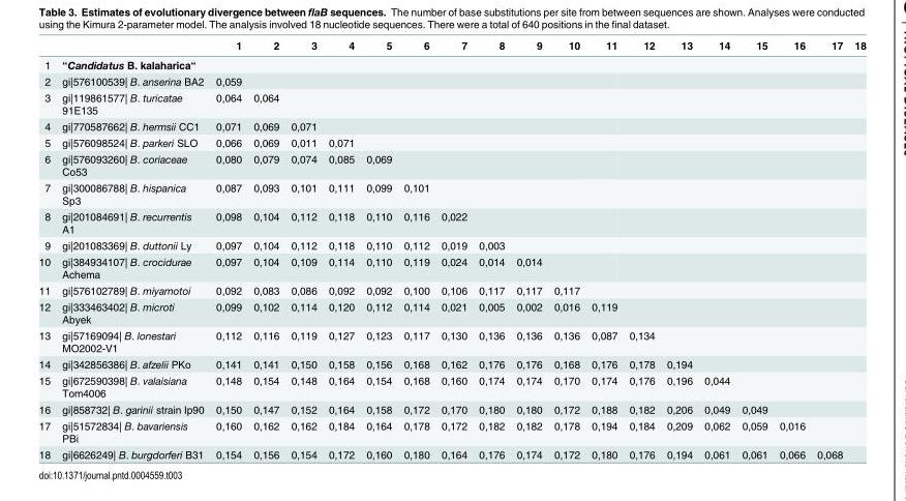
<table><thead><tr><td></td><td></td><td>1</td><td>2</td><td>3</td><td>4</td><td>5</td><td>6</td><td>7</td><td>8</td><td>9</td><td>10</td><td>11</td><td>12</td><td>13</td><td>14</td><td>15</td><td>16</td><td>17</td><td>18</td></tr></thead><tbody><tr><td>1</td><td>“Candidatus B. kalaharica“</td><td></td><td></td><td></td><td></td><td></td><td></td><td></td><td></td><td></td><td></td><td></td><td></td><td></td><td></td><td></td><td></td><td></td><td></td></tr><tr><td>2</td><td>gi|576100539| B. anserina BA2</td><td>0,059</td><td></td><td></td><td></td><td></td><td></td><td></td><td></td><td></td><td></td><td></td><td></td><td></td><td></td><td></td><td></td><td></td><td></td></tr><tr><td>3</td><td>gi|119861577| B. turicatae 91E135</td><td>0,064</td><td>0,064</td><td></td><td></td><td></td><td></td><td></td><td></td><td></td><td></td><td></td><td></td><td></td><td></td><td></td><td></td><td></td><td></td></tr><tr><td>4</td><td>gi|770587662| B. hermsii CC1</td><td>0,071</td><td>0,069</td><td>0,071</td><td></td><td></td><td></td><td></td><td></td><td></td><td></td><td></td><td></td><td></td><td></td><td></td><td></td><td></td><td></td></tr><tr><td>5</td><td>gi|576098524| B. parkeri SLO</td><td>0,066</td><td>0,069</td><td>0,011</td><td>0,071</td><td></td><td></td><td></td><td></td><td></td><td></td><td></td><td></td><td></td><td></td><td></td><td></td><td></td><td></td></tr><tr><td>6</td><td>gi|576093260| B. coriaceae Co53</td><td>0,080</td><td>0,079</td><td>0,074</td><td>0,085</td><td>0,069</td><td></td><td></td><td></td><td></td><td></td><td></td><td></td><td></td><td></td><td></td><td></td><td></td><td></td></tr><tr><td>7</td><td>gi|300086788| B. hispanica Sp3</td><td>0,087</td><td>0,093</td><td>0,101</td><td>0,111</td><td>0,099</td><td>0,101</td><td></td><td></td><td></td><td></td><td></td><td></td><td></td><td></td><td></td><td></td><td></td><td></td></tr><tr><td>8</td><td>gi|201084691| B. recurrentis A1</td><td>0,098</td><td>0,104</td><td>0,112</td><td>0,118</td><td>0,110</td><td>0,116</td><td>0,022</td><td></td><td></td><td></td><td></td><td></td><td></td><td></td><td></td><td></td><td></td><td></td></tr><tr><td>9</td><td>gi|201083369| B. duttonii Ly</td><td>0,097</td><td>0,104</td><td>0,112</td><td>0,118</td><td>0,110</td><td>0,112</td><td>0,019</td><td>0,003</td><td></td><td></td><td></td><td></td><td></td><td></td><td></td><td></td><td></td><td></td></tr><tr><td>10</td><td>gi|384934107| B. crocidurae Achema</td><td>0,097</td><td>0,104</td><td>0,109</td><td>0,114</td><td>0,110</td><td>0,119</td><td>0,024</td><td>0,014</td><td>0,014</td><td></td><td></td><td></td><td></td><td></td><td></td><td></td><td></td><td></td></tr><tr><td>11</td><td>gi|576102789| B. miyamotoi</td><td>0,092</td><td>0,083</td><td>0,086</td><td>0,092</td><td>0,092</td><td>0,100</td><td>0,106</td><td>0,117</td><td>0,117</td><td>0,117</td><td></td><td></td><td></td><td></td><td></td><td></td><td></td><td></td></tr><tr><td>12</td><td>gi|333463402| B. microti Abyek</td><td>0,099</td><td>0,102</td><td>0,114</td><td>0,120</td><td>0,112</td><td>0,114</td><td>0,021</td><td>0,005</td><td>0,002</td><td>0,016</td><td>0,119</td><td></td><td></td><td></td><td></td><td></td><td></td><td></td></tr><tr><td>13</td><td>gi|57169094| B. lonestari MO2002-V1</td><td>0,112</td><td>0,116</td><td>0,119</td><td>0,127</td><td>0,123</td><td>0,117</td><td>0,130</td><td>0,136</td><td>0,136</td><td>0,136</td><td>0,087</td><td>0,134</td><td></td><td></td><td></td><td></td><td></td><td></td></tr><tr><td>14</td><td>gi|342856386| B. afzelii PKo</td><td>0,141</td><td>0,141</td><td>0,150</td><td>0,158</td><td>0,156</td><td>0,168</td><td>0,162</td><td>0,176</td><td>0,176</td><td>0,168</td><td>0,176</td><td>0,178</td><td>0,194</td><td></td><td></td><td></td><td></td><td></td></tr><tr><td>15</td><td>gi|672590398| B. valaisiana Tom4006</td><td>0,148</td><td>0,154</td><td>0,148</td><td>0,164</td><td>0,154</td><td>0,168</td><td>0,160</td><td>0,174</td><td>0,174</td><td>0,170</td><td>0,174</td><td>0,176</td><td>0,196</td><td>0,044</td><td></td><td></td><td></td><td></td></tr><tr><td>16</td><td>gi|858732| B. garinii strain Ip90</td><td>0,150</td><td>0,147</td><td>0,152</td><td>0,164</td><td>0,158</td><td>0,172</td><td>0,170</td><td>0,180</td><td>0,180</td><td>0,172</td><td>0,188</td><td>0,182</td><td>0,206</td><td>0,049</td><td>0,049</td><td></td><td></td><td></td></tr><tr><td>17</td><td>gi|51572834| B. bavariensis PBi</td><td>0,160</td><td>0,162</td><td>0,162</td><td>0,184</td><td>0,164</td><td>0,178</td><td>0,172</td><td>0,182</td><td>0,182</td><td>0,178</td><td>0,194</td><td>0,184</td><td>0,209</td><td>0,062</td><td>0,059</td><td>0,016</td><td></td><td></td></tr><tr><td>18</td><td>gi|6626249| B. burgdorferi B31</td><td>0,154</td><td>0,156</td><td>0,154</td><td>0,172</td><td>0,160</td><td>0,180</td><td>0,164</td><td>0,176</td><td>0,174</td><td>0,172</td><td>0,180</td><td>0,176</td><td>0,194</td><td>0,061</td><td>0,061</td><td>0,066</td><td>0,068</td><td></td></tr></tbody></table>